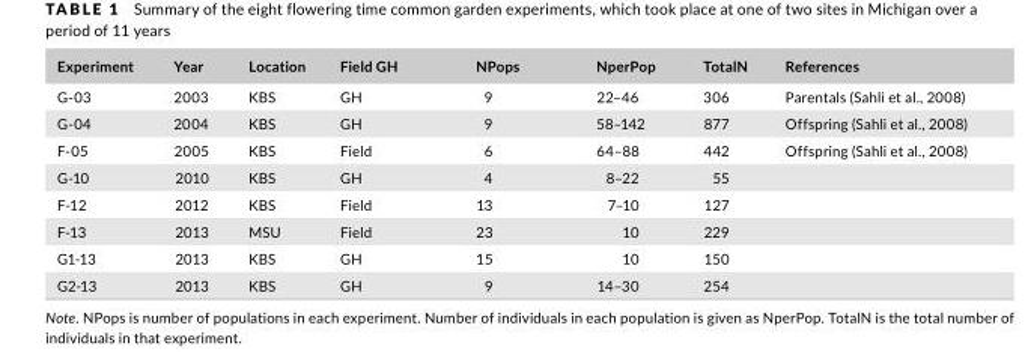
<table><thead><tr><td>Experiment</td><td>Year</td><td>Location</td><td>Field GH</td><td>NPops</td><td>NperPop</td><td>TotalN</td><td>References</td></tr></thead><tbody><tr><td>G- 03</td><td>2003</td><td>KBS</td><td>GH</td><td>9</td><td>22–46</td><td>306</td><td>Parentals (Sahli et al., 2008)</td></tr><tr><td>G- 04</td><td>2004</td><td>KBS</td><td>GH</td><td>9</td><td>58–142</td><td>877</td><td>Offspring (Sahli et al., 2008)</td></tr><tr><td>F- 05</td><td>2005</td><td>KBS</td><td>Field</td><td>6</td><td>64–88</td><td>442</td><td>Offspring (Sahli et al., 2008)</td></tr><tr><td>G- 10</td><td>2010</td><td>KBS</td><td>GH</td><td>4</td><td>8–22</td><td>55</td><td></td></tr><tr><td>F- 12</td><td>2012</td><td>KBS</td><td>Field</td><td>13</td><td>7–10</td><td>127</td><td></td></tr><tr><td>F- 13</td><td>2013</td><td>MSU</td><td>Field</td><td>23</td><td>10</td><td>229</td><td></td></tr><tr><td>G1- 13</td><td>2013</td><td>KBS</td><td>GH</td><td>15</td><td>10</td><td>150</td><td></td></tr><tr><td>G2- 13</td><td>2013</td><td>KBS</td><td>GH</td><td>9</td><td>14–30</td><td>254</td><td></td></tr></tbody></table>